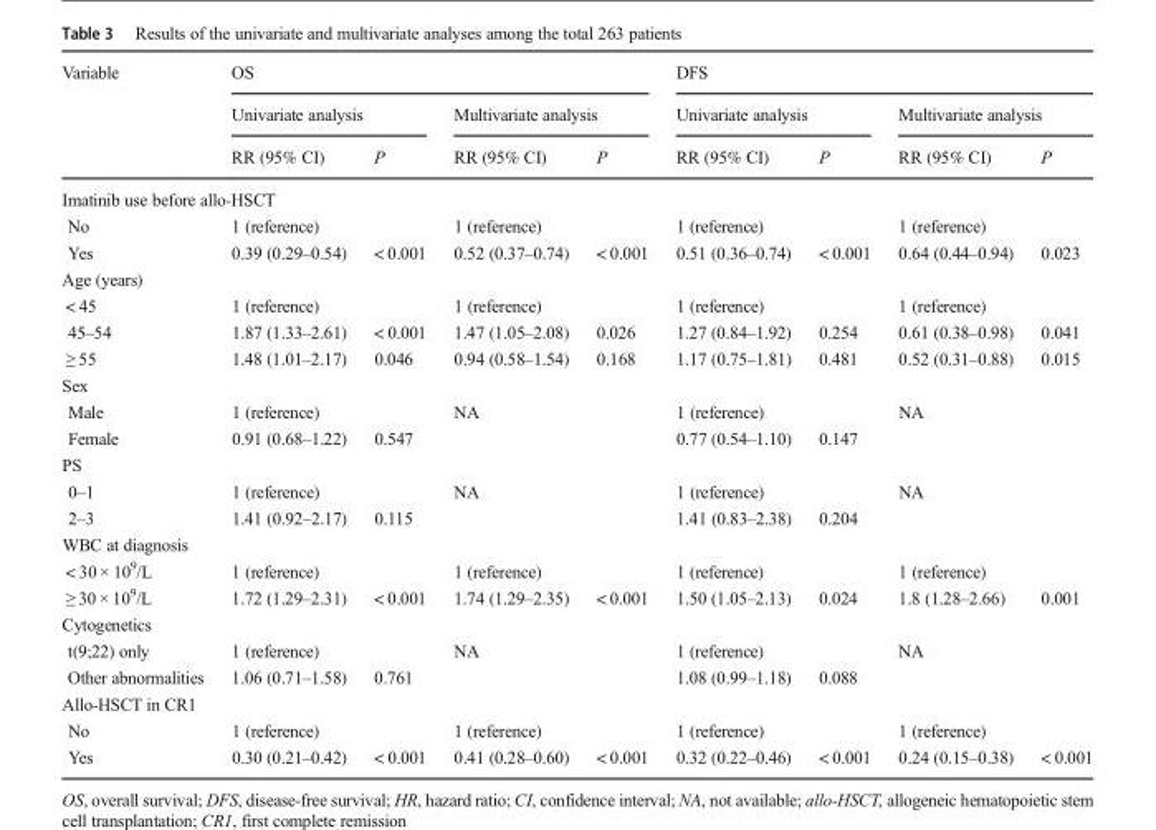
<table><thead><tr><td rowspan="3">Variable</td><td colspan="4">OS</td><td colspan="4">DFS</td></tr><tr><td colspan="2">Univariate analysis</td><td colspan="2">Multivariate analysis</td><td colspan="2">Univariate analysis</td><td colspan="2">Multivariate analysis</td></tr><tr><td>RR (95% CI)</td><td>P</td><td>RR (95% CI)</td><td>P</td><td>RR (95% CI)</td><td>P</td><td>RR (95% CI)</td><td>P</td></tr></thead><tbody><tr><td colspan="9">Imatinib use before allo-HSCT</td></tr><tr><td>No</td><td>1 (reference)</td><td></td><td>1 (reference)</td><td></td><td>1 (reference)</td><td></td><td>1 (reference)</td><td></td></tr><tr><td>Yes</td><td>0.39 (0.29–0.54)</td><td>&lt; 0.001</td><td>0.52 (0.37–0.74)</td><td>&lt; 0.001</td><td>0.51 (0.36–0.74)</td><td>&lt; 0.001</td><td>0.64 (0.44–0.94)</td><td>0.023</td></tr><tr><td colspan="9">Age (years)</td></tr><tr><td>&lt; 45</td><td>1 (reference)</td><td></td><td>1 (reference)</td><td></td><td>1 (reference)</td><td></td><td>1 (reference)</td><td></td></tr><tr><td>45–54</td><td>1.87 (1.33–2.61)</td><td>&lt; 0.001</td><td>1.47 (1.05–2.08)</td><td>0.026</td><td>1.27 (0.84–1.92)</td><td>0.254</td><td>0.61 (0.38–0.98)</td><td>0.041</td></tr><tr><td>≥ 55</td><td>1.48 (1.01–2.17)</td><td>0.046</td><td>0.94 (0.58–1.54)</td><td>0.168</td><td>1.17 (0.75–1.81)</td><td>0.481</td><td>0.52 (0.31–0.88)</td><td>0.015</td></tr><tr><td colspan="9">Sex</td></tr><tr><td>Male</td><td>1 (reference)</td><td></td><td>NA</td><td></td><td>1 (reference)</td><td></td><td>NA</td><td></td></tr><tr><td>Female</td><td>0.91 (0.68–1.22)</td><td>0.547</td><td></td><td></td><td>0.77 (0.54–1.10)</td><td>0.147</td><td></td><td></td></tr><tr><td colspan="9">PS</td></tr><tr><td>0–1</td><td>1 (reference)</td><td></td><td>NA</td><td></td><td>1 (reference)</td><td></td><td>NA</td><td></td></tr><tr><td>2–3</td><td>1.41 (0.92–2.17)</td><td>0.115</td><td></td><td></td><td>1.41 (0.83–2.38)</td><td>0.204</td><td></td><td></td></tr><tr><td colspan="9">WBC at diagnosis</td></tr><tr><td>&lt; 30 × 10<sup>9</sup>/L</td><td>1 (reference)</td><td></td><td>1 (reference)</td><td></td><td>1 (reference)</td><td></td><td>1 (reference)</td><td></td></tr><tr><td>≥ 30 × 10<sup>9</sup>/L</td><td>1.72 (1.29–2.31)</td><td>&lt; 0.001</td><td>1.74 (1.29–2.35)</td><td>&lt; 0.001</td><td>1.50 (1.05–2.13)</td><td>0.024</td><td>1.8 (1.28–2.66)</td><td>0.001</td></tr><tr><td colspan="9">Cytogenetics</td></tr><tr><td>t(9;22) only</td><td>1 (reference)</td><td></td><td>NA</td><td></td><td>1 (reference)</td><td></td><td>NA</td><td></td></tr><tr><td>Other abnormalities</td><td>1.06 (0.71–1.58)</td><td>0.761</td><td></td><td></td><td>1.08 (0.99–1.18)</td><td>0.088</td><td></td><td></td></tr><tr><td colspan="9">Allo-HSCT in CR1</td></tr><tr><td>No</td><td>1 (reference)</td><td></td><td>1 (reference)</td><td></td><td>1 (reference)</td><td></td><td>1 (reference)</td><td></td></tr><tr><td>Yes</td><td>0.30 (0.21–0.42)</td><td>&lt; 0.001</td><td>0.41 (0.28–0.60)</td><td>&lt; 0.001</td><td>0.32 (0.22–0.46)</td><td>&lt; 0.001</td><td>0.24 (0.15–0.38)</td><td>&lt; 0.001</td></tr></tbody></table>